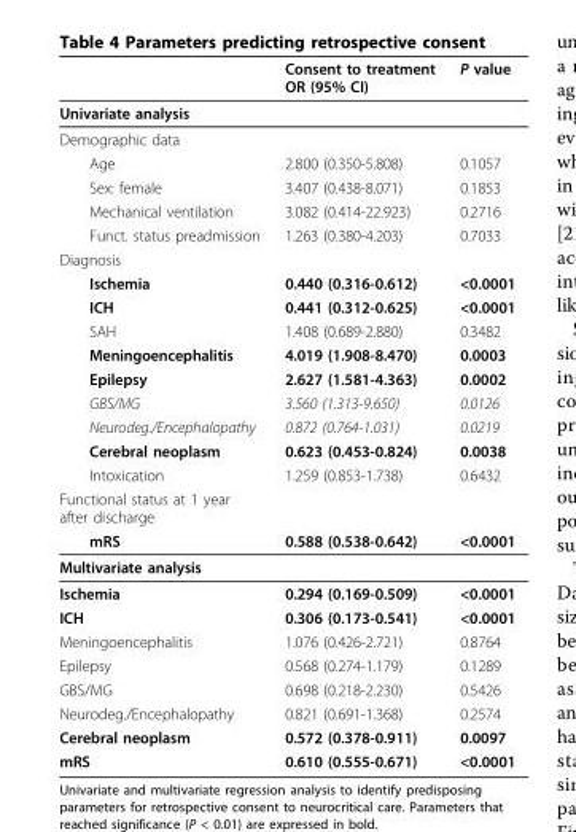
<table><thead><tr><td></td><td>Consent to treatment OR (95% CI)</td><td>P value</td></tr></thead><tbody><tr><td colspan="3">Univariate analysis</td></tr><tr><td colspan="3">Demographic data</td></tr><tr><td>Age</td><td>2.800 (0.350-5.808)</td><td>0.1057</td></tr><tr><td>Sex: female</td><td>3.407 (0.438-8.071)</td><td>0.1853</td></tr><tr><td>Mechanical ventilation</td><td>3.082 (0.414-22.923)</td><td>0.2716</td></tr><tr><td>Funct. status preadmission</td><td>1.263 (0.380-4.203)</td><td>0.7033</td></tr><tr><td colspan="3">Diagnosis</td></tr><tr><td>Ischemia</td><td>0.440 (0.316-0.612)</td><td>&lt;0.0001</td></tr><tr><td>ICH</td><td>0.441 (0.312-0.625)</td><td>&lt;0.0001</td></tr><tr><td>SAH</td><td>1.408 (0.689-2.880)</td><td>0.3482</td></tr><tr><td>Meningoencephalitis</td><td>4.019 (1.908-8.470)</td><td>0.0003</td></tr><tr><td>Epilepsy</td><td>2.627 (1.581-4.363)</td><td>0.0002</td></tr><tr><td>GBS/MG</td><td>3.560 (1.313-9.650)</td><td>0.0126</td></tr><tr><td>Neurodeg./Encephalopathy</td><td>0.872 (0.764-1.031)</td><td>0.0219</td></tr><tr><td>Cerebral neoplasm</td><td>0.623 (0.453-0.824)</td><td>0.0038</td></tr><tr><td>Intoxication</td><td>1.259 (0.853-1.738)</td><td>0.6432</td></tr><tr><td colspan="3">Functional status at 1 year after discharge</td></tr><tr><td>mRS</td><td>0.588 (0.538-0.642)</td><td>&lt;0.0001</td></tr><tr><td colspan="3">Multivariate analysis</td></tr><tr><td>Ischemia</td><td>0.294 (0.169-0.509)</td><td>&lt;0.0001</td></tr><tr><td>ICH</td><td>0.306 (0.173-0.541)</td><td>&lt;0.0001</td></tr><tr><td>Meningoencephalitis</td><td>1.076 (0.426-2.721)</td><td>0.8764</td></tr><tr><td>Epilepsy</td><td>0.568 (0.274-1.179)</td><td>0.1289</td></tr><tr><td>GBS/MG</td><td>0.698 (0.218-2.230)</td><td>0.5426</td></tr><tr><td>Neurodeg./Encephalopathy</td><td>0.821 (0.691-1.368)</td><td>0.2574</td></tr><tr><td>Cerebral neoplasm</td><td>0.572 (0.378-0.911)</td><td>0.0097</td></tr><tr><td>mRS</td><td>0.610 (0.555-0.671)</td><td>&lt;0.0001</td></tr></tbody></table>